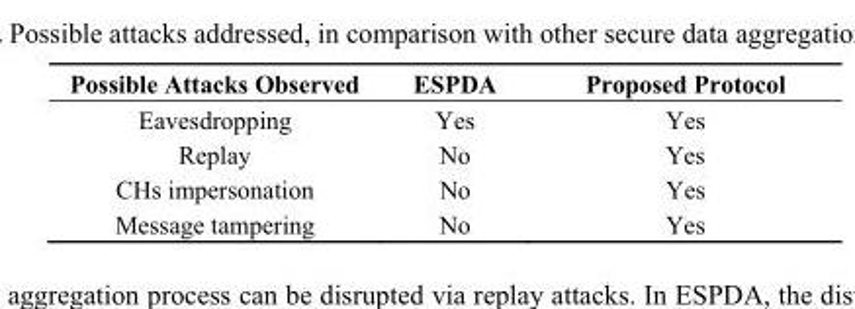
<table><thead><tr><td>Possible Attacks Observed</td><td>ESPDA</td><td>Proposed Protocol</td></tr></thead><tbody><tr><td>Eavesdropping</td><td>Yes</td><td>Yes</td></tr><tr><td>Replay</td><td>No</td><td>Yes</td></tr><tr><td>CHs impersonation</td><td>No</td><td>Yes</td></tr><tr><td>Message tampering</td><td>No</td><td>Yes</td></tr></tbody></table>